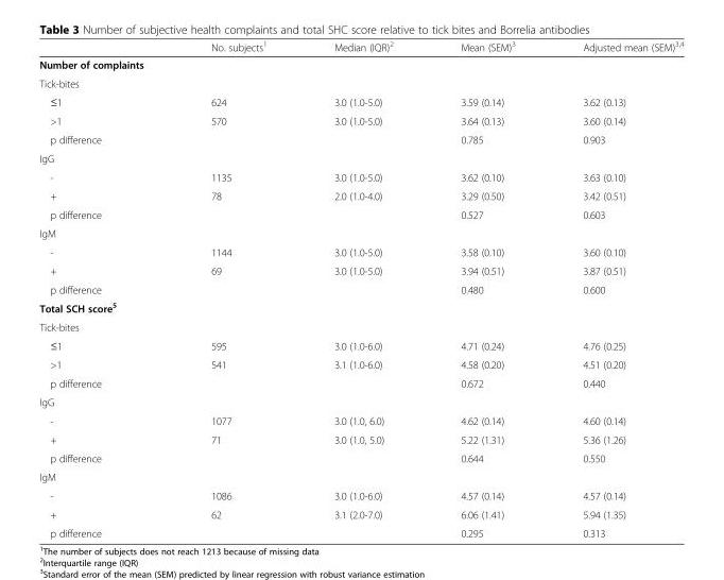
<table><thead><tr><td></td><td>No. subjects<sup>1</sup></td><td>Median (IQR)<sup>2</sup></td><td>Mean (SEM)<sup>3</sup></td><td>Adjusted mean (SEM)<sup>3,4</sup></td></tr></thead><tbody><tr><td colspan="5">Number of complaints</td></tr><tr><td colspan="5">Tick-bites</td></tr><tr><td>≤1</td><td>624</td><td>3.0 (1.0-5.0)</td><td>3.59 (0.14)</td><td>3.62 (0.13)</td></tr><tr><td>&gt;1</td><td>570</td><td>3.0 (1.0-5.0)</td><td>3.64 (0.13)</td><td>3.60 (0.14)</td></tr><tr><td>p difference</td><td></td><td></td><td>0.785</td><td>0.903</td></tr><tr><td colspan="5">IgG</td></tr><tr><td>-</td><td>1135</td><td>3.0 (1.0-5.0)</td><td>3.62 (0.10)</td><td>3.63 (0.10)</td></tr><tr><td>+</td><td>78</td><td>2.0 (1.0-4.0)</td><td>3.29 (0.50)</td><td>3.42 (0.51)</td></tr><tr><td>p difference</td><td></td><td></td><td>0.527</td><td>0.603</td></tr><tr><td colspan="5">IgM</td></tr><tr><td>-</td><td>1144</td><td>3.0 (1.0-5.0)</td><td>3.58 (0.10)</td><td>3.60 (0.10)</td></tr><tr><td>+</td><td>69</td><td>3.0 (1.0-5.0)</td><td>3.94 (0.51)</td><td>3.87 (0.51)</td></tr><tr><td>p difference</td><td></td><td></td><td>0.480</td><td>0.600</td></tr><tr><td colspan="5">Total SCH score<sup>5</sup></td></tr><tr><td colspan="5">Tick-bites</td></tr><tr><td>≤1</td><td>595</td><td>3.0 (1.0-6.0)</td><td>4.71 (0.24)</td><td>4.76 (0.25)</td></tr><tr><td>&gt;1</td><td>541</td><td>3.1 (1.0-6.0)</td><td>4.58 (0.20)</td><td>4.51 (0.20)</td></tr><tr><td>p difference</td><td></td><td></td><td>0.672</td><td>0.440</td></tr><tr><td colspan="5">IgG</td></tr><tr><td>-</td><td>1077</td><td>3.0 (1.0, 6.0)</td><td>4.62 (0.14)</td><td>4.60 (0.14)</td></tr><tr><td>+</td><td>71</td><td>3.0 (1.0, 5.0)</td><td>5.22 (1.31)</td><td>5.36 (1.26)</td></tr><tr><td>p difference</td><td></td><td></td><td>0.644</td><td>0.550</td></tr><tr><td colspan="5">IgM</td></tr><tr><td>-</td><td>1086</td><td>3.0 (1.0-6.0)</td><td>4.57 (0.14)</td><td>4.57 (0.14)</td></tr><tr><td>+</td><td>62</td><td>3.1 (2.0-7.0)</td><td>6.06 (1.41)</td><td>5.94 (1.35)</td></tr><tr><td>p difference</td><td></td><td></td><td>0.295</td><td>0.313</td></tr></tbody></table>